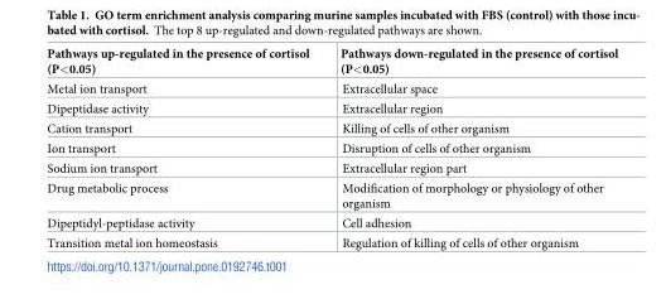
<table><thead><tr><td>Pathways up-regulated in the presence of cortisol (P&lt;0.05)</td><td>Pathways down-regulated in the presence of cortisol (P&lt;0.05)</td></tr></thead><tbody><tr><td>Metal ion transport</td><td>Extracellular space</td></tr><tr><td>Dipeptidase activity</td><td>Extracellular region</td></tr><tr><td>Cation transport</td><td>Killing of cells of other organism</td></tr><tr><td>Ion transport</td><td>Disruption of cells of other organism</td></tr><tr><td>Sodium ion transport</td><td>Extracellular region part</td></tr><tr><td>Drug metabolic process</td><td>Modification of morphology or physiology of other organism</td></tr><tr><td>Dipeptidyl-peptidase activity</td><td>Cell adhesion</td></tr><tr><td>Transition metal ion homeostasis</td><td>Regulation of killing of cells of other organism</td></tr></tbody></table>